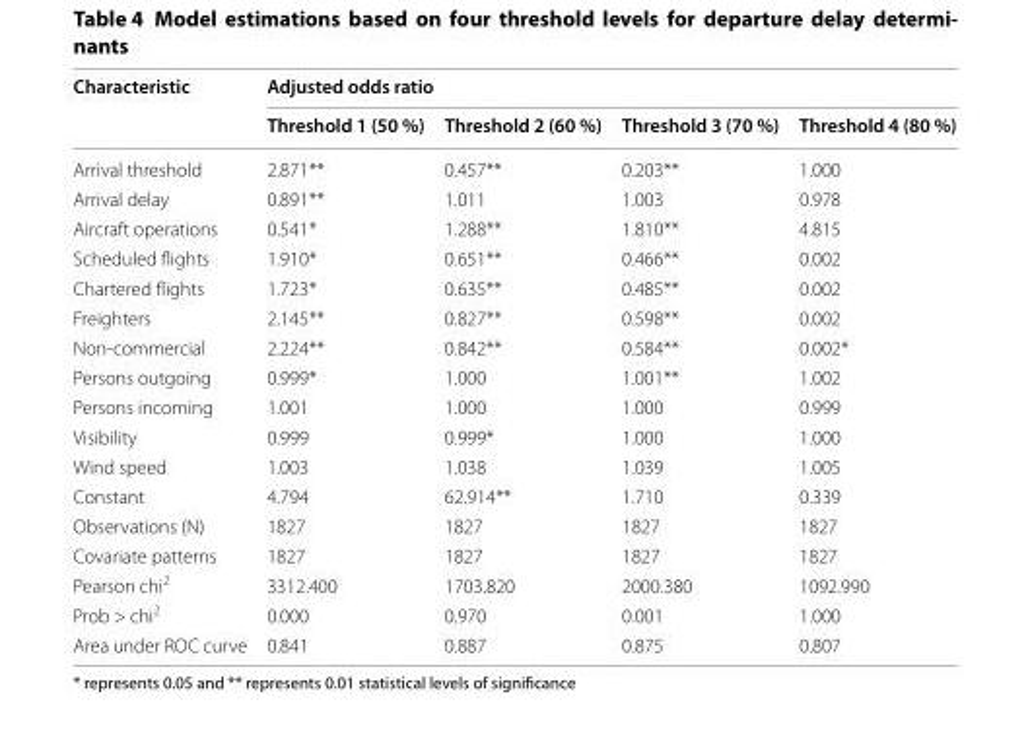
<table><thead><tr><td rowspan="2">Characteristic</td><td colspan="4">Adjusted odds ratio</td></tr><tr><td>Threshold 1 (50 %)</td><td>Threshold 2 (60 %)</td><td>Threshold 3 (70 %)</td><td>Threshold 4 (80 %)</td></tr></thead><tbody><tr><td>Arrival threshold</td><td>2.871**</td><td>0.457**</td><td>0.203**</td><td>1.000</td></tr><tr><td>Arrival delay</td><td>0.891**</td><td>1.011</td><td>1.003</td><td>0.978</td></tr><tr><td>Aircraft operations</td><td>0.541*</td><td>1.288**</td><td>1.810**</td><td>4.815</td></tr><tr><td>Scheduled flights</td><td>1.910*</td><td>0.651**</td><td>0.466**</td><td>0.002</td></tr><tr><td>Chartered flights</td><td>1.723*</td><td>0.635**</td><td>0.485**</td><td>0.002</td></tr><tr><td>Freighters</td><td>2.145**</td><td>0.827**</td><td>0.598**</td><td>0.002</td></tr><tr><td>Non-commercial</td><td>2.224**</td><td>0.842**</td><td>0.584**</td><td>0.002*</td></tr><tr><td>Persons outgoing</td><td>0.999*</td><td>1.000</td><td>1.001**</td><td>1.002</td></tr><tr><td>Persons incoming</td><td>1.001</td><td>1.000</td><td>1.000</td><td>0.999</td></tr><tr><td>Visibility</td><td>0.999</td><td>0.999*</td><td>1.000</td><td>1.000</td></tr><tr><td>Wind speed</td><td>1.003</td><td>1.038</td><td>1.039</td><td>1.005</td></tr><tr><td>Constant</td><td>4.794</td><td>62.914**</td><td>1.710</td><td>0.339</td></tr><tr><td>Observations (N)</td><td>1827</td><td>1827</td><td>1827</td><td>1827</td></tr><tr><td>Covariate patterns</td><td>1827</td><td>1827</td><td>1827</td><td>1827</td></tr><tr><td>Pearson chi<sup>2</sup></td><td>3312.400</td><td>1703.820</td><td>2000.380</td><td>1092.990</td></tr><tr><td>Prob &gt; chi<sup>2</sup></td><td>0.000</td><td>0.970</td><td>0.001</td><td>1.000</td></tr><tr><td>Area under ROC curve</td><td>0.841</td><td>0.887</td><td>0.875</td><td>0.807</td></tr></tbody></table>